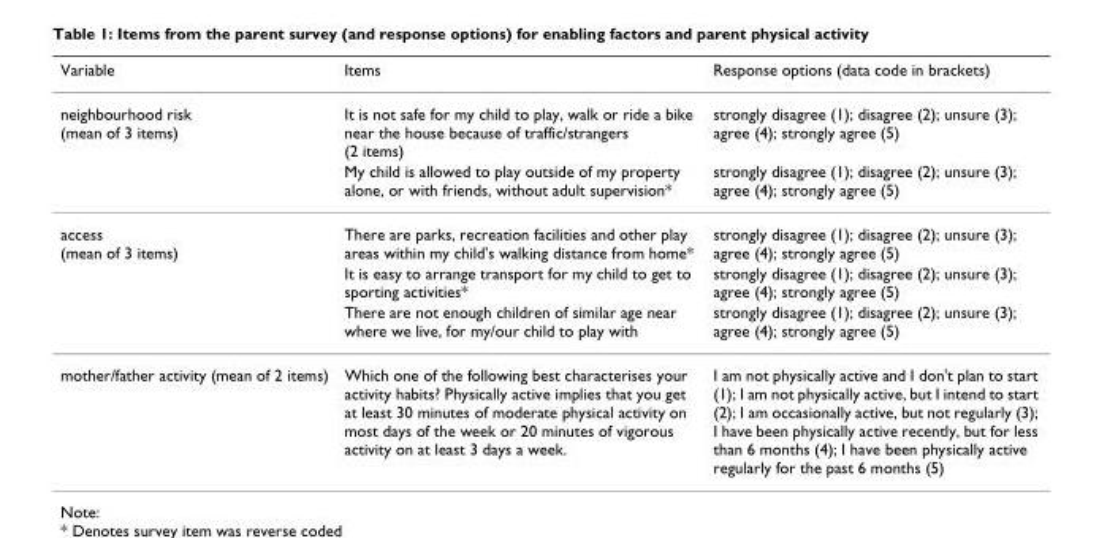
<table><thead><tr><td>Variable</td><td>Items</td><td>Response options (data code in brackets)</td></tr></thead><tbody><tr><td rowspan="2">neighbourhood risk (mean of 3 items)</td><td>It is not safe for my child to play, walk or ride a bike near the house because of traffic/strangers (2 items)</td><td>strongly disagree (1); disagree (2); unsure (3); agree (4); strongly agree (5)</td></tr><tr><td>My child is allowed to play outside of my property alone, or with friends, without adult supervision*</td><td>strongly disagree (1); disagree (2); unsure (3); agree (4); strongly agree (5)</td></tr><tr><td rowspan="3">access (mean of 3 items)</td><td>There are parks, recreation facilities and other play areas within my child&#x27;s walking distance from home*</td><td>strongly disagree (1); disagree (2); unsure (3); agree (4); strongly agree (5)</td></tr><tr><td>It is easy to arrange transport for my child to get to sporting activities*</td><td>strongly disagree (1); disagree (2); unsure (3); agree (4); strongly agree (5)</td></tr><tr><td>There are not enough children of similar age near where we live, for my/our child to play with</td><td>strongly disagree (1); disagree (2); unsure (3); agree (4); strongly agree (5)</td></tr><tr><td>mother/father activity (mean of 2 items)</td><td>Which one of the following best characterises your activity habits? Physically active implies that you get at least 30 minutes of moderate physical activity on most days of the week or 20 minutes of vigorous activity on at least 3 days a week.</td><td>I am not physically active and I don&#x27;t plan to start (1); I am not physically active, but I intend to start (2); I am occasionally active, but not regularly (3); I have been physically active recently, but for less than 6 months (4); I have been physically active regularly for the past 6 months (5)</td></tr></tbody></table>